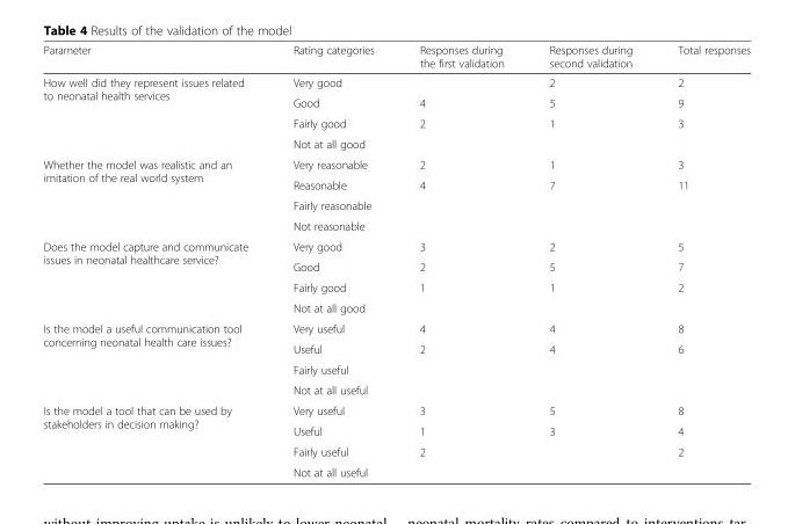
<table><thead><tr><td>Parameter</td><td>Rating categories</td><td>Responses during the first validation</td><td>Responses during second validation</td><td>Total responses</td></tr></thead><tbody><tr><td rowspan="4">How well did they represent issues related to neonatal health services</td><td>Very good</td><td></td><td>2</td><td>2</td></tr><tr><td>Good</td><td>4</td><td>5</td><td>9</td></tr><tr><td>Fairly good</td><td>2</td><td>1</td><td>3</td></tr><tr><td>Not at all good</td><td></td><td></td><td></td></tr><tr><td rowspan="4">Whether the model was realistic and an imitation of the real world system</td><td>Very reasonable</td><td>2</td><td>1</td><td>3</td></tr><tr><td>Reasonable</td><td>4</td><td>7</td><td>11</td></tr><tr><td>Fairly reasonable</td><td></td><td></td><td></td></tr><tr><td>Not reasonable</td><td></td><td></td><td></td></tr><tr><td rowspan="4">Does the model capture and communicate issues in neonatal healthcare service?</td><td>Very good</td><td>3</td><td>2</td><td>5</td></tr><tr><td>Good</td><td>2</td><td>5</td><td>7</td></tr><tr><td>Fairly good</td><td>1</td><td>1</td><td>2</td></tr><tr><td>Not at all good</td><td></td><td></td><td></td></tr><tr><td rowspan="4">Is the model a useful communication tool concerning neonatal health care issues?</td><td>Very useful</td><td>4</td><td>4</td><td>8</td></tr><tr><td>Useful</td><td>2</td><td>4</td><td>6</td></tr><tr><td>Fairly useful</td><td></td><td></td><td></td></tr><tr><td>Not at all useful</td><td></td><td></td><td></td></tr><tr><td rowspan="4">Is the model a tool that can be used by stakeholders in decision making?</td><td>Very useful</td><td>3</td><td>5</td><td>8</td></tr><tr><td>Useful</td><td>1</td><td>3</td><td>4</td></tr><tr><td>Fairly useful</td><td>2</td><td></td><td>2</td></tr><tr><td>Not at all useful</td><td></td><td></td><td></td></tr></tbody></table>